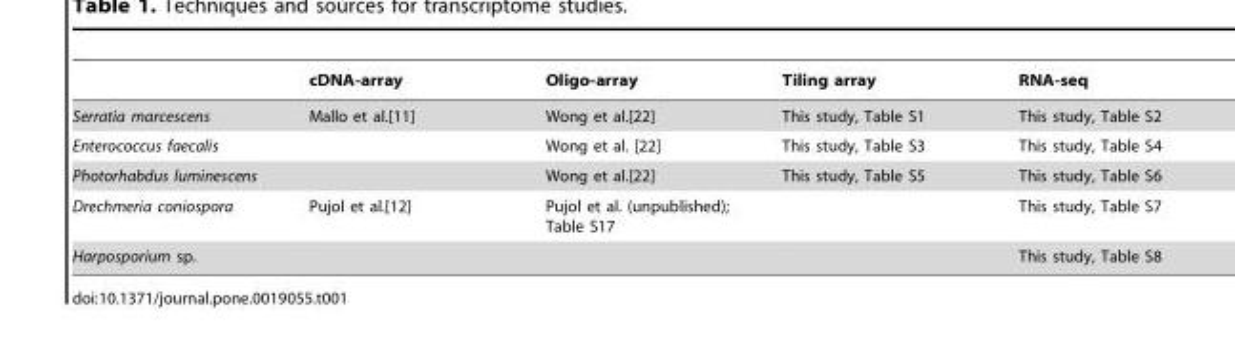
<table><thead><tr><td></td><td>cDNA-array</td><td>Oligo-array</td><td>Tiling array</td><td>RNA-seq</td></tr></thead><tbody><tr><td>Serratia marcescens</td><td>Mallo et al.[11]</td><td>Wong et al.[22]</td><td>This study, Table S1</td><td>This study, Table S2</td></tr><tr><td>Enterococcus faecalis</td><td></td><td>Wong et al. [22]</td><td>This study, Table S3</td><td>This study, Table S4</td></tr><tr><td>Photorhabdus luminescens</td><td></td><td>Wong et al.[22]</td><td>This study, Table S5</td><td>This study, Table S6</td></tr><tr><td>Drechmeria coniospora</td><td>Pujol et al.[12]</td><td>Pujol et al. (unpublished); Table S17</td><td></td><td>This study, Table S7</td></tr><tr><td>Harposporium sp.</td><td></td><td></td><td></td><td>This study, Table S8</td></tr></tbody></table>